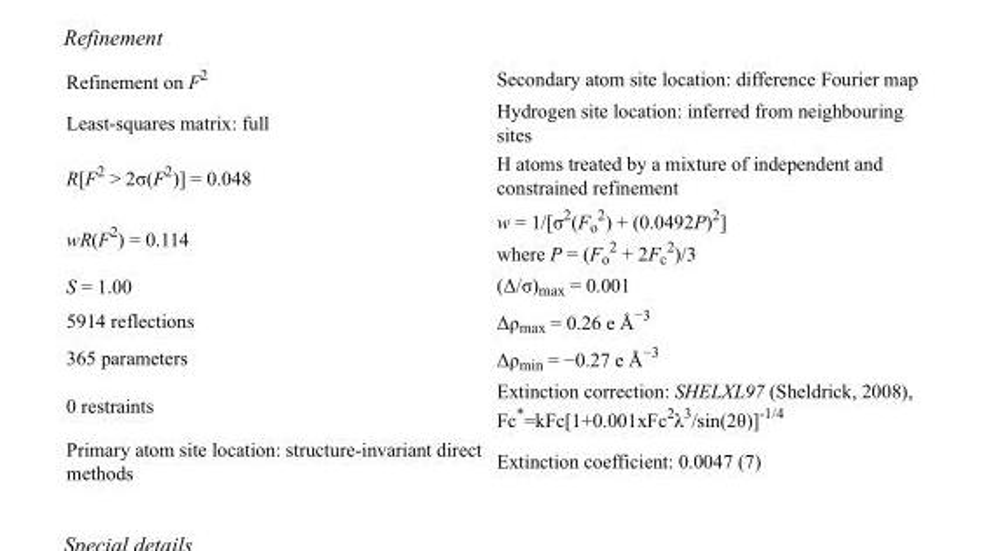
<table><tbody><tr><td>Refinement on F<sup>2</sup></td><td>Secondary atom site location: difference Fourier map</td></tr><tr><td>Least-squares matrix: full</td><td>Hydrogen site location: inferred from neighbouring sites</td></tr><tr><td>R[F<sup>2</sup> &gt; 2σ(F<sup>2</sup>)] = 0.048</td><td>H atoms treated by a mixture of independent and constrained refinement</td></tr><tr><td>wR(F<sup>2</sup>) = 0.114</td><td>w = 1/[σ<sup>2</sup>(F<sub>o</sub> <sup>2</sup>) + (0.0492P)<sup>2</sup>] where P = (F<sub>o</sub> <sup>2</sup> + 2F<sub>c</sub> <sup>2</sup>)/3</td></tr><tr><td>S = 1.00</td><td>(Δ/σ)<sub>max</sub> = 0.001</td></tr><tr><td>5914 reflections</td><td>Δρ<sub>max</sub> = 0.26 e Å<sup>−3</sup></td></tr><tr><td>365 parameters</td><td>Δρ<sub>min</sub> = −0.27 e Å<sup>−3</sup></td></tr><tr><td>0 restraints</td><td>Extinction correction: SHELXL97 (Sheldrick, 2008), Fc*=kFc[1+0.001xFc<sup>2</sup>λ<sup>3</sup>/sin(2θ)]<sup>-1/4</sup></td></tr><tr><td>Primary atom site location: structure-invariant direct methods</td><td>Extinction coefficient: 0.0047 (7)</td></tr></tbody></table>